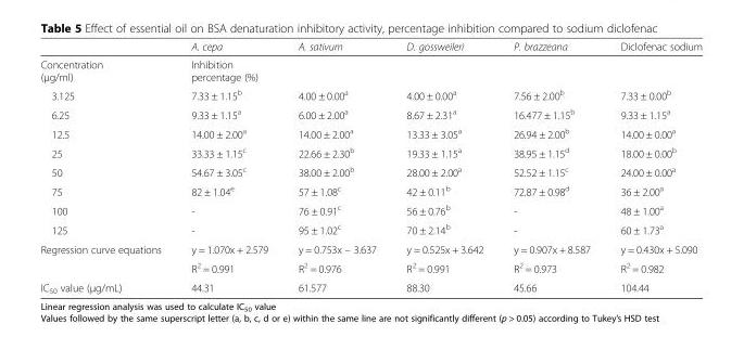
<table><thead><tr><td></td><td>A. cepa</td><td>A. sativum</td><td>D. gossweileri</td><td>P. brazzeana</td><td>Diclofenac sodium</td></tr></thead><tbody><tr><td>Concentration (μg/ml)</td><td colspan="5">Inhibition percentage (%)</td></tr><tr><td>3.125</td><td>7.33 ± 1.15<sup>b</sup></td><td>4.00 ± 0.00<sup>a</sup></td><td>4.00 ± 0.00<sup>a</sup></td><td>7.56 ± 2.00<sup>b</sup></td><td>7.33 ± 0.00<sup>b</sup></td></tr><tr><td>6.25</td><td>9.33 ± 1.15<sup>a</sup></td><td>6.00 ± 2.00<sup>a</sup></td><td>8.67 ± 2.31<sup>a</sup></td><td>16.477 ± 1.15<sup>b</sup></td><td>9.33 ± 1.15<sup>a</sup></td></tr><tr><td>12.5</td><td>14.00 ± 2.00<sup>a</sup></td><td>14.00 ± 2.00<sup>a</sup></td><td>13.33 ± 3.05<sup>a</sup></td><td>26.94 ± 2.00<sup>b</sup></td><td>14.00 ± 0.00<sup>a</sup></td></tr><tr><td>25</td><td>33.33 ± 1.15<sup>c</sup></td><td>22.66 ± 2.30<sup>b</sup></td><td>19.33 ± 1.15<sup>a</sup></td><td>38.95 ± 1.15<sup>d</sup></td><td>18.00 ± 0.00<sup>b</sup></td></tr><tr><td>50</td><td>54.67 ± 3.05<sup>c</sup></td><td>38.00 ± 2.00<sup>b</sup></td><td>28.00 ± 2.00<sup>a</sup></td><td>52.52 ± 1.15<sup>c</sup></td><td>24.00 ± 0.00<sup>a</sup></td></tr><tr><td>75</td><td>82 ± 1.04<sup>e</sup></td><td>57 ± 1.08<sup>c</sup></td><td>42 ± 0.11<sup>b</sup></td><td>72.87 ± 0.98<sup>d</sup></td><td>36 ± 2.00<sup>a</sup></td></tr><tr><td>100</td><td>-</td><td>76 ± 0.91<sup>c</sup></td><td>56 ± 0.76<sup>b</sup></td><td>-</td><td>48 ± 1.00<sup>a</sup></td></tr><tr><td>125</td><td>-</td><td>95 ± 1.02<sup>c</sup></td><td>70 ± 2.14<sup>b</sup></td><td>-</td><td>60 ± 1.73<sup>a</sup></td></tr><tr><td rowspan="2">Regression curve equations</td><td>y = 1.070x + 2.579</td><td>y = 0.753x – 3.637</td><td>y = 0.525x + 3.642</td><td>y = 0.907x + 8.587</td><td>y = 0.430x + 5.090</td></tr><tr><td>R<sup>2</sup> = 0.991</td><td>R<sup>2</sup> = 0.976</td><td>R<sup>2</sup> = 0.991</td><td>R<sup>2</sup> = 0.973</td><td>R<sup>2</sup> = 0.982</td></tr><tr><td>IC<sub>50</sub> value (μg/mL)</td><td>44.31</td><td>61.577</td><td>88.30</td><td>45.66</td><td>104.44</td></tr></tbody></table>